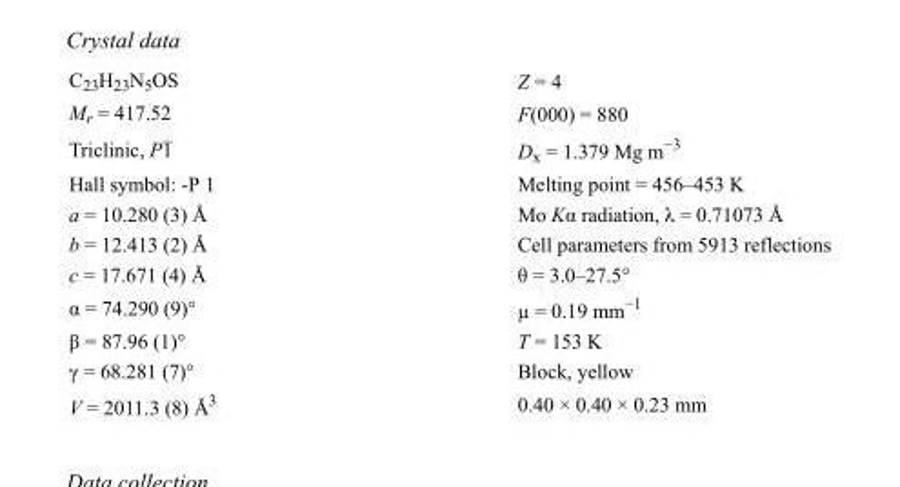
<table><tbody><tr><td>C<sub>23</sub>H<sub>23</sub>N<sub>5</sub>OS</td><td>Z = 4</td></tr><tr><td>M<sub>r</sub> = 417.52</td><td>F(000) = 880</td></tr><tr><td>Triclinic, P1</td><td>D<sub>x</sub> = 1.379 Mg m<sup>−3</sup></td></tr><tr><td>Hall symbol: -P 1</td><td>Melting point = 456–453 K</td></tr><tr><td>a = 10.280 (3) Å</td><td>Mo Kα radiation, λ = 0.71073 Å</td></tr><tr><td>b = 12.413 (2) Å</td><td>Cell parameters from 5913 reflections</td></tr><tr><td>c = 17.671 (4) Å</td><td>θ = 3.0–27.5°</td></tr><tr><td>α = 74.290 (9)°</td><td>µ = 0.19 mm<sup>−1</sup></td></tr><tr><td>β = 87.96 (1)°</td><td>T = 153 K</td></tr><tr><td>γ = 68.281 (7)°</td><td>Block, yellow</td></tr><tr><td>V = 2011.3 (8) Å<sup>3</sup></td><td>0.40 × 0.40 × 0.23 mm</td></tr></tbody></table>